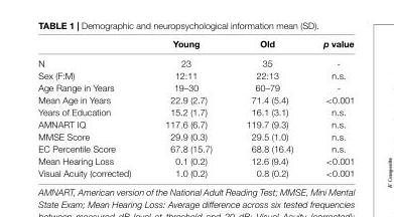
<table><thead><tr><td></td><td>Young</td><td>Old</td><td>p value</td></tr></thead><tbody><tr><td>N</td><td>23</td><td>35</td><td>-</td></tr><tr><td>Sex (F:M)</td><td>12:11</td><td>22:13</td><td>n.s.</td></tr><tr><td>Age Range in Years</td><td>19–30</td><td>60–79</td><td>-</td></tr><tr><td>Mean Age in Years</td><td>22.9 (2.7)</td><td>71.4 (5.4)</td><td>&lt;0.001</td></tr><tr><td>Years of Education</td><td>15.2 (1.7)</td><td>16.1 (3.1)</td><td>n.s.</td></tr><tr><td>AMNART IQ</td><td>117.6 (6.7)</td><td>119.7 (9.3)</td><td>n.s.</td></tr><tr><td>MMSE Score</td><td>29.9 (0.3)</td><td>29.5 (1.0)</td><td>n.s.</td></tr><tr><td>EC Percentile Score</td><td>67.8 (15.7)</td><td>68.8 (16.4)</td><td>n.s.</td></tr><tr><td>Mean Hearing Loss</td><td>0.1 (0.2)</td><td>12.6 (9.4)</td><td>&lt;0.001</td></tr><tr><td>Visual Acuity (corrected)</td><td>1.0 (0.2)</td><td>0.8 (0.2)</td><td>&lt;0.001</td></tr></tbody></table>